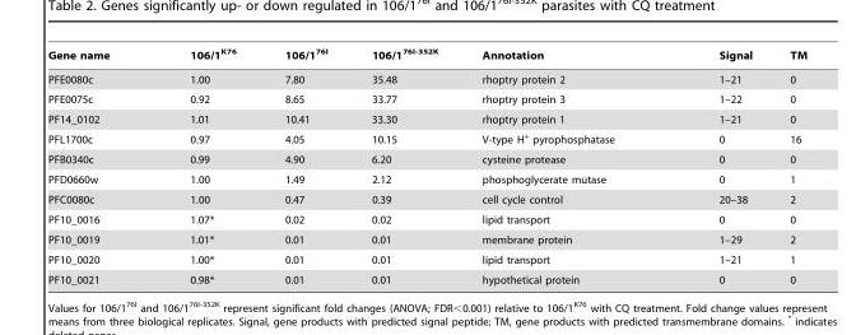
<table><thead><tr><td>Gene name</td><td>106/1<sup>K76</sup></td><td>106/1<sup>76I</sup></td><td>106/1<sup>76I-352K</sup></td><td>Annotation</td><td>Signal</td><td>TM</td></tr></thead><tbody><tr><td>PFE0080c</td><td>1.00</td><td>7.80</td><td>35.48</td><td>rhoptry protein 2</td><td>1–21</td><td>0</td></tr><tr><td>PFE0075c</td><td>0.92</td><td>8.65</td><td>33.77</td><td>rhoptry protein 3</td><td>1–22</td><td>0</td></tr><tr><td>PF14_0102</td><td>1.01</td><td>10.41</td><td>33.30</td><td>rhoptry protein 1</td><td>1–21</td><td>0</td></tr><tr><td>PFL1700c</td><td>0.97</td><td>4.05</td><td>10.15</td><td>V-type H<sup>+</sup> pyrophosphatase</td><td>0</td><td>16</td></tr><tr><td>PFB0340c</td><td>0.99</td><td>4.90</td><td>6.20</td><td>cysteine protease</td><td>0</td><td>0</td></tr><tr><td>PFD0660w</td><td>1.00</td><td>1.49</td><td>2.12</td><td>phosphoglycerate mutase</td><td>0</td><td>1</td></tr><tr><td>PFC0080c</td><td>1.00</td><td>0.47</td><td>0.39</td><td>cell cycle control</td><td>20–38</td><td>2</td></tr><tr><td>PF10_0016</td><td>1.07*</td><td>0.02</td><td>0.02</td><td>lipid transport</td><td>0</td><td>0</td></tr><tr><td>PF10_0019</td><td>1.01*</td><td>0.01</td><td>0.01</td><td>membrane protein</td><td>1–29</td><td>2</td></tr><tr><td>PF10_0020</td><td>1.00*</td><td>0.01</td><td>0.01</td><td>lipid transport</td><td>1–21</td><td>1</td></tr><tr><td>PF10_0021</td><td>0.98*</td><td>0.01</td><td>0.01</td><td>hypothetical protein</td><td>0</td><td>0</td></tr></tbody></table>